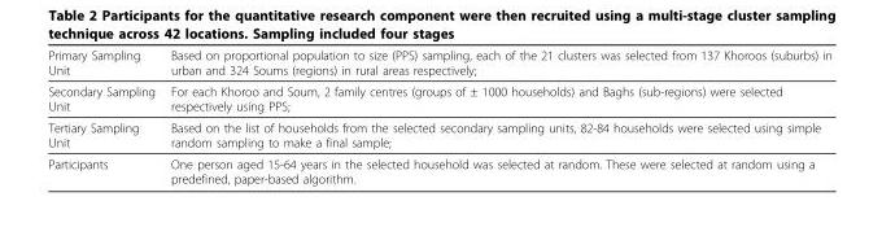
<table><thead><tr><td>Primary Sampling Unit</td><td>Based on proportional population to size (PPS) sampling, each of the 21 clusters was selected from 137 Khoroos (suburbs) in urban and 324 Soums (regions) in rural areas respectively;</td></tr></thead><tbody><tr><td>Secondary Sampling Unit</td><td>For each Khoroo and Soum, 2 family centres (groups of ± 1000 households) and Baghs (sub-regions) were selected respectively using PPS;</td></tr><tr><td>Tertiary Sampling Unit</td><td>Based on the list of households from the selected secondary sampling units, 82-84 households were selected using simple random sampling to make a final sample;</td></tr><tr><td>Participants</td><td>One person aged 15-64 years in the selected household was selected at random. These were selected at random using a predefined, paper-based algorithm.</td></tr></tbody></table>